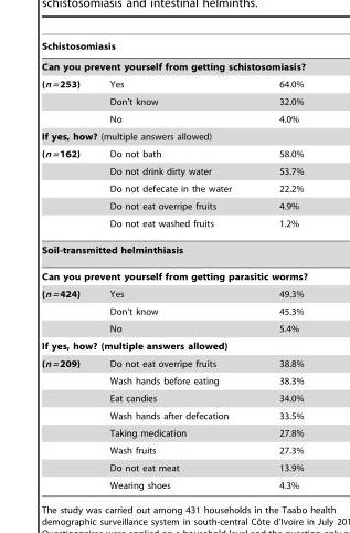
<table><thead><tr><td rowspan="2" colspan="3">Schistosomiasis Can you prevent yourself from getting schistosomiasis?</td></tr><tr></tr><tr><td>(n = 253)</td><td>Yes</td><td>64.0%</td></tr></thead><tbody><tr><td></td><td>Don’t know</td><td>32.0%</td></tr><tr><td></td><td>No</td><td>4.0%</td></tr><tr><td colspan="3">If yes, how? (multiple answers allowed)</td></tr><tr><td rowspan="5">(n = 162)</td><td>Do not bath</td><td>58.0%</td></tr><tr><td>Do not drink dirty water</td><td>53.7%</td></tr><tr><td>Do not defecate in the water</td><td>22.2%</td></tr><tr><td>Do not eat overripe fruits</td><td>4.9%</td></tr><tr><td>Do not eat washed fruits</td><td>1.2%</td></tr><tr><td colspan="3">Soil-transmitted helminthiasis</td></tr><tr><td colspan="3">Can you prevent yourself from getting parasitic worms?</td></tr><tr><td rowspan="3">(n = 424)</td><td>Yes</td><td>49.3%</td></tr><tr><td>Don’t know</td><td>45.3%</td></tr><tr><td>No</td><td>5.4%</td></tr><tr><td colspan="3">If yes, how? (multiple answers allowed)</td></tr><tr><td rowspan="8">(n = 209)</td><td>Do not eat overripe fruits</td><td>38.8%</td></tr><tr><td>Wash hands before eating</td><td>38.3%</td></tr><tr><td>Eat candies</td><td>34.0%</td></tr><tr><td>Wash hands after defecation</td><td>33.5%</td></tr><tr><td>Taking medication</td><td>27.8%</td></tr><tr><td>Wash fruits</td><td>27.3%</td></tr><tr><td>Do not eat meat</td><td>13.9%</td></tr><tr><td>Wearing shoes</td><td>4.3%</td></tr></tbody></table>